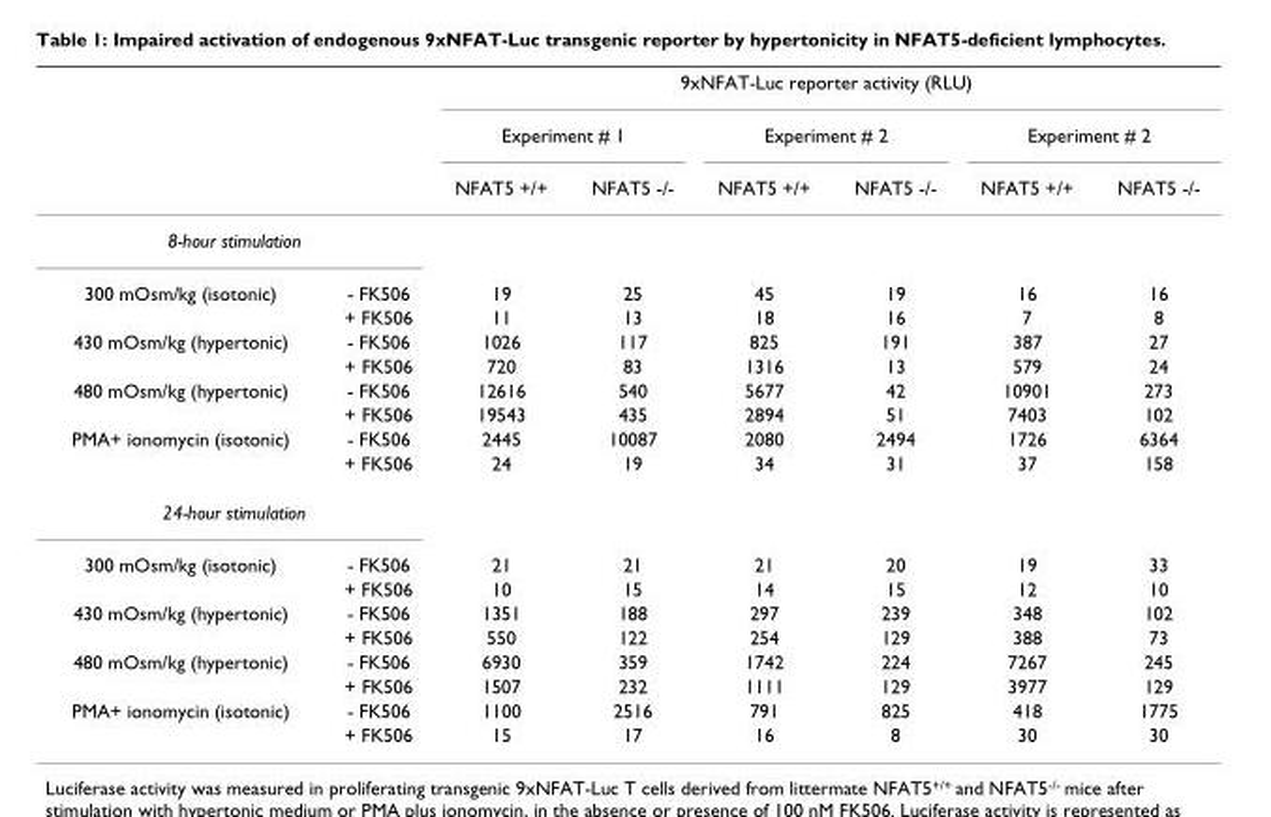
<table><thead><tr><td rowspan="3"></td><td rowspan="3"></td><td colspan="6">9xNFAT-Luc reporter activity (RLU)</td></tr><tr><td colspan="2">Experiment # 1</td><td colspan="2">Experiment # 2</td><td colspan="2">Experiment # 2</td></tr><tr><td>NFAT5 +/+</td><td>NFAT5 -/-</td><td>NFAT5 +/+</td><td>NFAT5 -/-</td><td>NFAT5 +/+</td><td>NFAT5 -/-</td></tr></thead><tbody><tr><td colspan="8">8-hour stimulation</td></tr><tr><td rowspan="2">300 mOsm/kg (isotonic)</td><td>- FK506</td><td>19</td><td>25</td><td>45</td><td>19</td><td>16</td><td>16</td></tr><tr><td>+ FK506</td><td>11</td><td>13</td><td>18</td><td>16</td><td>7</td><td>8</td></tr><tr><td rowspan="2">430 mOsm/kg (hypertonic)</td><td>- FK506</td><td>1026</td><td>117</td><td>825</td><td>191</td><td>387</td><td>27</td></tr><tr><td>+ FK506</td><td>720</td><td>83</td><td>1316</td><td>13</td><td>579</td><td>24</td></tr><tr><td rowspan="2">480 mOsm/kg (hypertonic)</td><td>- FK506</td><td>12616</td><td>540</td><td>5677</td><td>42</td><td>10901</td><td>273</td></tr><tr><td>+ FK506</td><td>19543</td><td>435</td><td>2894</td><td>51</td><td>7403</td><td>102</td></tr><tr><td rowspan="2">PMA+ ionomycin (isotonic)</td><td>- FK506</td><td>2445</td><td>10087</td><td>2080</td><td>2494</td><td>1726</td><td>6364</td></tr><tr><td>+ FK506</td><td>24</td><td>19</td><td>34</td><td>31</td><td>37</td><td>158</td></tr><tr><td colspan="8">24-hour stimulation</td></tr><tr><td rowspan="2">300 mOsm/kg (isotonic)</td><td>- FK506</td><td>21</td><td>21</td><td>21</td><td>20</td><td>19</td><td>33</td></tr><tr><td>+ FK506</td><td>10</td><td>15</td><td>14</td><td>15</td><td>12</td><td>10</td></tr><tr><td rowspan="2">430 mOsm/kg (hypertonic)</td><td>- FK506</td><td>1351</td><td>188</td><td>297</td><td>239</td><td>348</td><td>102</td></tr><tr><td>+ FK506</td><td>550</td><td>122</td><td>254</td><td>129</td><td>388</td><td>73</td></tr><tr><td rowspan="2">480 mOsm/kg (hypertonic)</td><td>- FK506</td><td>6930</td><td>359</td><td>1742</td><td>224</td><td>7267</td><td>245</td></tr><tr><td>+ FK506</td><td>1507</td><td>232</td><td>1111</td><td>129</td><td>3977</td><td>129</td></tr><tr><td rowspan="2">PMA+ ionomycin (isotonic)</td><td>- FK506</td><td>1100</td><td>2516</td><td>791</td><td>825</td><td>418</td><td>1775</td></tr><tr><td>+ FK506</td><td>15</td><td>17</td><td>16</td><td>8</td><td>30</td><td>30</td></tr></tbody></table>